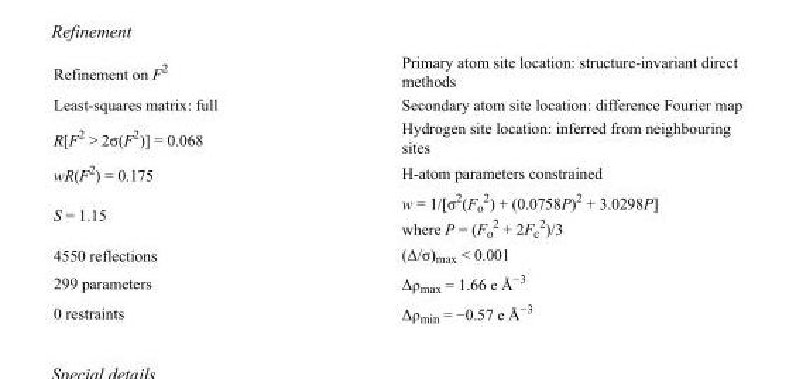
<table><tbody><tr><td>Refinement on F<sup>2</sup></td><td>Primary atom site location: structure-invariant direct methods</td></tr><tr><td>Least-squares matrix: full</td><td>Secondary atom site location: difference Fourier map</td></tr><tr><td>R[F<sup>2</sup> &gt; 2σ(F<sup>2</sup>)] = 0.068</td><td>Hydrogen site location: inferred from neighbouring sites</td></tr><tr><td>wR(F<sup>2</sup>) = 0.175</td><td>H-atom parameters constrained</td></tr><tr><td>S = 1.15</td><td>w = 1/[σ<sup>2</sup>(F<sub>o</sub> <sup>2</sup>) + (0.0758P)<sup>2</sup> + 3.0298P] where P = (F<sub>o</sub> <sup>2</sup> + 2F<sub>c</sub> <sup>2</sup>)/3</td></tr><tr><td>4550 reflections</td><td>(Δ/σ)<sub>max</sub> &lt; 0.001</td></tr><tr><td>299 parameters</td><td>Δρ<sub>max</sub> = 1.66 e Å<sup>−3</sup></td></tr><tr><td>0 restraints</td><td>Δρ<sub>min</sub> = −0.57 e Å<sup>−3</sup></td></tr></tbody></table>